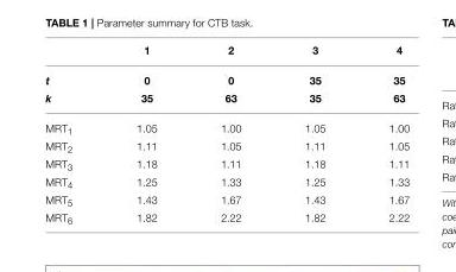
<table><thead><tr><td></td><td>1</td><td>2</td><td>3</td><td>4</td></tr></thead><tbody><tr><td>t</td><td>0</td><td>0</td><td>35</td><td>35</td></tr><tr><td>k</td><td>35</td><td>63</td><td>35</td><td>63</td></tr><tr><td>MRT<sub>1</sub></td><td>1.05</td><td>1.00</td><td>1.05</td><td>1.00</td></tr><tr><td>MRT<sub>2</sub></td><td>1.11</td><td>1.05</td><td>1.11</td><td>1.05</td></tr><tr><td>MRT<sub>3</sub></td><td>1.18</td><td>1.11</td><td>1.18</td><td>1.11</td></tr><tr><td>MRT<sub>4</sub></td><td>1.25</td><td>1.33</td><td>1.25</td><td>1.33</td></tr><tr><td>MRT<sub>5</sub></td><td>1.43</td><td>1.67</td><td>1.43</td><td>1.67</td></tr><tr><td>MRT<sub>6</sub></td><td>1.82</td><td>2.22</td><td>1.82</td><td>2.22</td></tr></tbody></table>